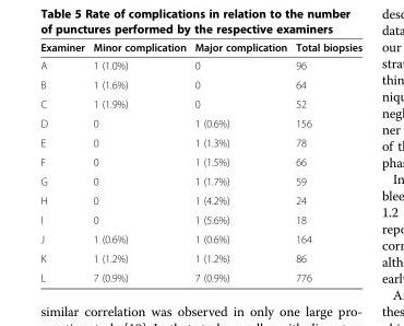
<table><thead><tr><td>Examiner</td><td>Minor complication</td><td>Major complication</td><td>Total biopsies</td></tr></thead><tbody><tr><td>A</td><td>1 (1.0%)</td><td>0</td><td>96</td></tr><tr><td>B</td><td>1 (1.6%)</td><td>0</td><td>64</td></tr><tr><td>C</td><td>1 (1.9%)</td><td>0</td><td>52</td></tr><tr><td>D</td><td>0</td><td>1 (0.6%)</td><td>156</td></tr><tr><td>E</td><td>0</td><td>1 (1.3%)</td><td>78</td></tr><tr><td>F</td><td>0</td><td>1 (1.5%)</td><td>66</td></tr><tr><td>G</td><td>0</td><td>1 (1.7%)</td><td>59</td></tr><tr><td>H</td><td>0</td><td>1 (4.2%)</td><td>24</td></tr><tr><td>I</td><td>0</td><td>1 (5.6%)</td><td>18</td></tr><tr><td>J</td><td>1 (0.6%)</td><td>1 (0.6%)</td><td>164</td></tr><tr><td>K</td><td>1 (1.2%)</td><td>1 (1.2%)</td><td>86</td></tr><tr><td>L</td><td>7 (0.9%)</td><td>7 (0.9%)</td><td>776</td></tr></tbody></table>